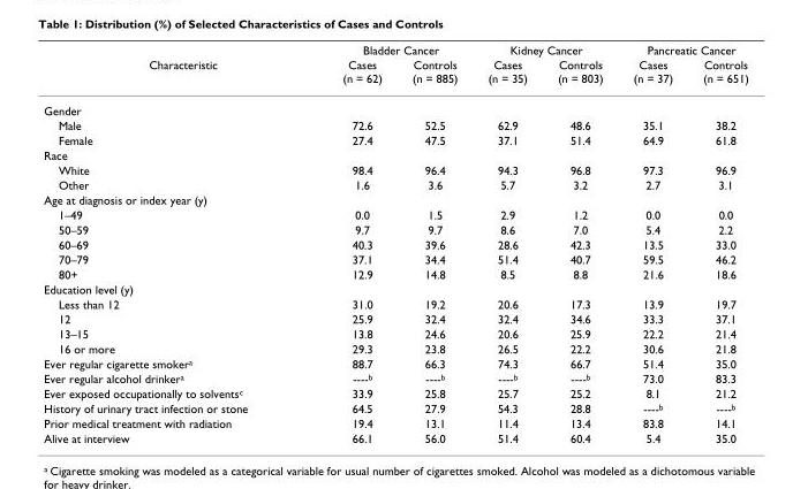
<table><thead><tr><td rowspan="2">Characteristic</td><td colspan="2">Bladder Cancer</td><td colspan="2">Kidney Cancer</td><td colspan="2">Pancreatic Cancer</td></tr><tr><td>Cases (n = 62)</td><td>Controls (n = 885)</td><td>Cases (n = 35)</td><td>Controls (n = 803)</td><td>Cases (n = 37)</td><td>Controls (n = 651)</td></tr></thead><tbody><tr><td colspan="7">Gender</td></tr><tr><td>Male</td><td>72.6</td><td>52.5</td><td>62.9</td><td>48.6</td><td>35.1</td><td>38.2</td></tr><tr><td>Female</td><td>27.4</td><td>47.5</td><td>37.1</td><td>51.4</td><td>64.9</td><td>61.8</td></tr><tr><td colspan="7">Race</td></tr><tr><td>White</td><td>98.4</td><td>96.4</td><td>94.3</td><td>96.8</td><td>97.3</td><td>96.9</td></tr><tr><td>Other</td><td>1.6</td><td>3.6</td><td>5.7</td><td>3.2</td><td>2.7</td><td>3.1</td></tr><tr><td colspan="7">Age at diagnosis or index year (y)</td></tr><tr><td>1–49</td><td>0.0</td><td>1.5</td><td>2.9</td><td>1.2</td><td>0.0</td><td>0.0</td></tr><tr><td>50–59</td><td>9.7</td><td>9.7</td><td>8.6</td><td>7.0</td><td>5.4</td><td>2.2</td></tr><tr><td>60–69</td><td>40.3</td><td>39.6</td><td>28.6</td><td>42.3</td><td>13.5</td><td>33.0</td></tr><tr><td>70–79</td><td>37.1</td><td>34.4</td><td>51.4</td><td>40.7</td><td>59.5</td><td>46.2</td></tr><tr><td>80+</td><td>12.9</td><td>14.8</td><td>8.5</td><td>8.8</td><td>21.6</td><td>18.6</td></tr><tr><td colspan="7">Education level (y)</td></tr><tr><td>Less than 12</td><td>31.0</td><td>19.2</td><td>20.6</td><td>17.3</td><td>13.9</td><td>19.7</td></tr><tr><td>12</td><td>25.9</td><td>32.4</td><td>32.4</td><td>34.6</td><td>33.3</td><td>37.1</td></tr><tr><td>13–15</td><td>13.8</td><td>24.6</td><td>20.6</td><td>25.9</td><td>22.2</td><td>21.4</td></tr><tr><td>16 or more</td><td>29.3</td><td>23.8</td><td>26.5</td><td>22.2</td><td>30.6</td><td>21.8</td></tr><tr><td>Ever regular cigarette smoker<sup>a</sup></td><td>88.7</td><td>66.3</td><td>74.3</td><td>66.7</td><td>51.4</td><td>35.0</td></tr><tr><td>Ever regular alcohol drinker<sup>a</sup></td><td>----<sup>b</sup></td><td>----<sup>b</sup></td><td>----<sup>b</sup></td><td>----<sup>b</sup></td><td>73.0</td><td>83.3</td></tr><tr><td>Ever exposed occupationally to solvents<sup>c</sup></td><td>33.9</td><td>25.8</td><td>25.7</td><td>25.2</td><td>8.1</td><td>21.2</td></tr><tr><td>History of urinary tract infection or stone</td><td>64.5</td><td>27.9</td><td>54.3</td><td>28.8</td><td>----<sup>b</sup></td><td>----<sup>b</sup></td></tr><tr><td>Prior medical treatment with radiation</td><td>19.4</td><td>13.1</td><td>11.4</td><td>13.4</td><td>83.8</td><td>14.1</td></tr><tr><td>Alive at interview</td><td>66.1</td><td>56.0</td><td>51.4</td><td>60.4</td><td>5.4</td><td>35.0</td></tr></tbody></table>